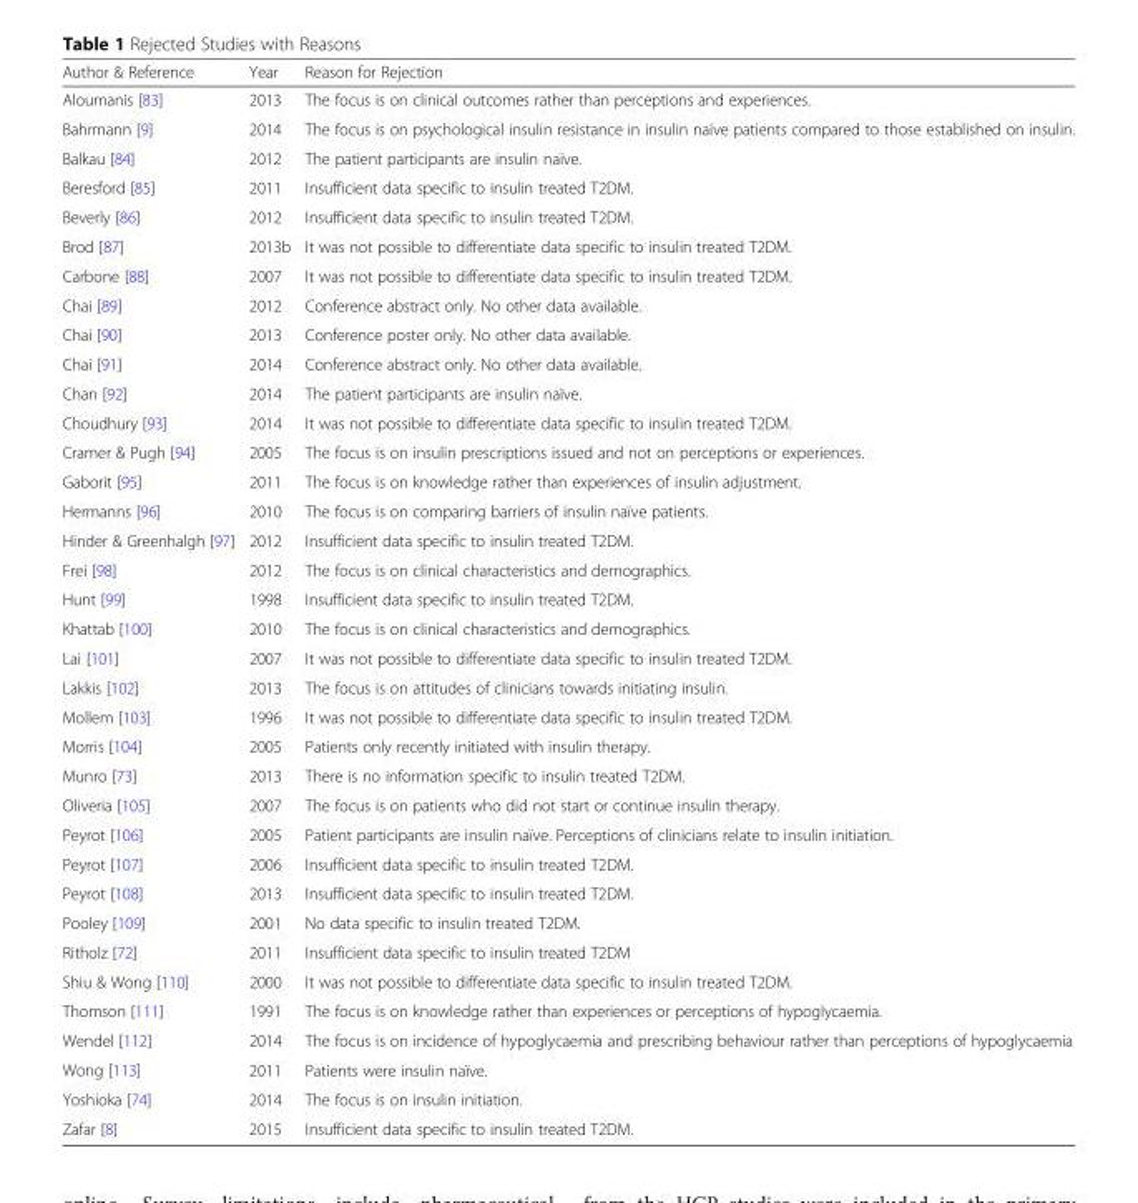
<table><thead><tr><td>Author &amp; Reference</td><td>Year</td><td>Reason for Rejection</td></tr></thead><tbody><tr><td>Aloumanis [83]</td><td>2013</td><td>The focus is on clinical outcomes rather than perceptions and experiences.</td></tr><tr><td>Bahrmann [9]</td><td>2014</td><td>The focus is on psychological insulin resistance in insulin naïve patients compared to those established on insulin.</td></tr><tr><td>Balkau [84]</td><td>2012</td><td>The patient participants are insulin naïve.</td></tr><tr><td>Beresford [85]</td><td>2011</td><td>Insufficient data specific to insulin treated T2DM.</td></tr><tr><td>Beverly [86]</td><td>2012</td><td>Insufficient data specific to insulin treated T2DM.</td></tr><tr><td>Brod [87]</td><td>2013b</td><td>It was not possible to differentiate data specific to insulin treated T2DM.</td></tr><tr><td>Carbone [88]</td><td>2007</td><td>It was not possible to differentiate data specific to insulin treated T2DM.</td></tr><tr><td>Chai [89]</td><td>2012</td><td>Conference abstract only. No other data available.</td></tr><tr><td>Chai [90]</td><td>2013</td><td>Conference poster only. No other data available.</td></tr><tr><td>Chai [91]</td><td>2014</td><td>Conference abstract only. No other data available.</td></tr><tr><td>Chan [92]</td><td>2014</td><td>The patient participants are insulin naïve.</td></tr><tr><td>Choudhury [93]</td><td>2014</td><td>It was not possible to differentiate data specific to insulin treated T2DM.</td></tr><tr><td>Cramer &amp; Pugh [94]</td><td>2005</td><td>The focus is on insulin prescriptions issued and not on perceptions or experiences.</td></tr><tr><td>Gaborit [95]</td><td>2011</td><td>The focus is on knowledge rather than experiences of insulin adjustment.</td></tr><tr><td>Hermanns [96]</td><td>2010</td><td>The focus is on comparing barriers of insulin naïve patients.</td></tr><tr><td>Hinder &amp; Greenhalgh [97]</td><td>2012</td><td>Insufficient data specific to insulin treated T2DM.</td></tr><tr><td>Frei [98]</td><td>2012</td><td>The focus is on clinical characteristics and demographics.</td></tr><tr><td>Hunt [99]</td><td>1998</td><td>Insufficient data specific to insulin treated T2DM.</td></tr><tr><td>Khattab [100]</td><td>2010</td><td>The focus is on clinical characteristics and demographics.</td></tr><tr><td>Lai [101]</td><td>2007</td><td>It was not possible to differentiate data specific to insulin treated T2DM.</td></tr><tr><td>Lakkis [102]</td><td>2013</td><td>The focus is on attitudes of clinicians towards initiating insulin.</td></tr><tr><td>Mollem [103]</td><td>1996</td><td>It was not possible to differentiate data specific to insulin treated T2DM.</td></tr><tr><td>Morris [104]</td><td>2005</td><td>Patients only recently initiated with insulin therapy.</td></tr><tr><td>Munro [73]</td><td>2013</td><td>There is no information specific to insulin treated T2DM.</td></tr><tr><td>Oliveria [105]</td><td>2007</td><td>The focus is on patients who did not start or continue insulin therapy.</td></tr><tr><td>Peyrot [106]</td><td>2005</td><td>Patient participants are insulin naïve. Perceptions of clinicians relate to insulin initiation.</td></tr><tr><td>Peyrot [107]</td><td>2006</td><td>Insufficient data specific to insulin treated T2DM.</td></tr><tr><td>Peyrot [108]</td><td>2013</td><td>Insufficient data specific to insulin treated T2DM.</td></tr><tr><td>Pooley [109]</td><td>2001</td><td>No data specific to insulin treated T2DM.</td></tr><tr><td>Ritholz [72]</td><td>2011</td><td>Insufficient data specific to insulin treated T2DM</td></tr><tr><td>Shiu &amp; Wong [110]</td><td>2000</td><td>It was not possible to differentiate data specific to insulin treated T2DM.</td></tr><tr><td>Thomson [111]</td><td>1991</td><td>The focus is on knowledge rather than experiences or perceptions of hypoglycaemia.</td></tr><tr><td>Wendel [112]</td><td>2014</td><td>The focus is on incidence of hypoglycaemia and prescribing behaviour rather than perceptions of hypoglycaemia</td></tr><tr><td>Wong [113]</td><td>2011</td><td>Patients were insulin naïve.</td></tr><tr><td>Yoshioka [74]</td><td>2014</td><td>The focus is on insulin initiation.</td></tr><tr><td>Zafar [8]</td><td>2015</td><td>Insufficient data specific to insulin treated T2DM.</td></tr></tbody></table>